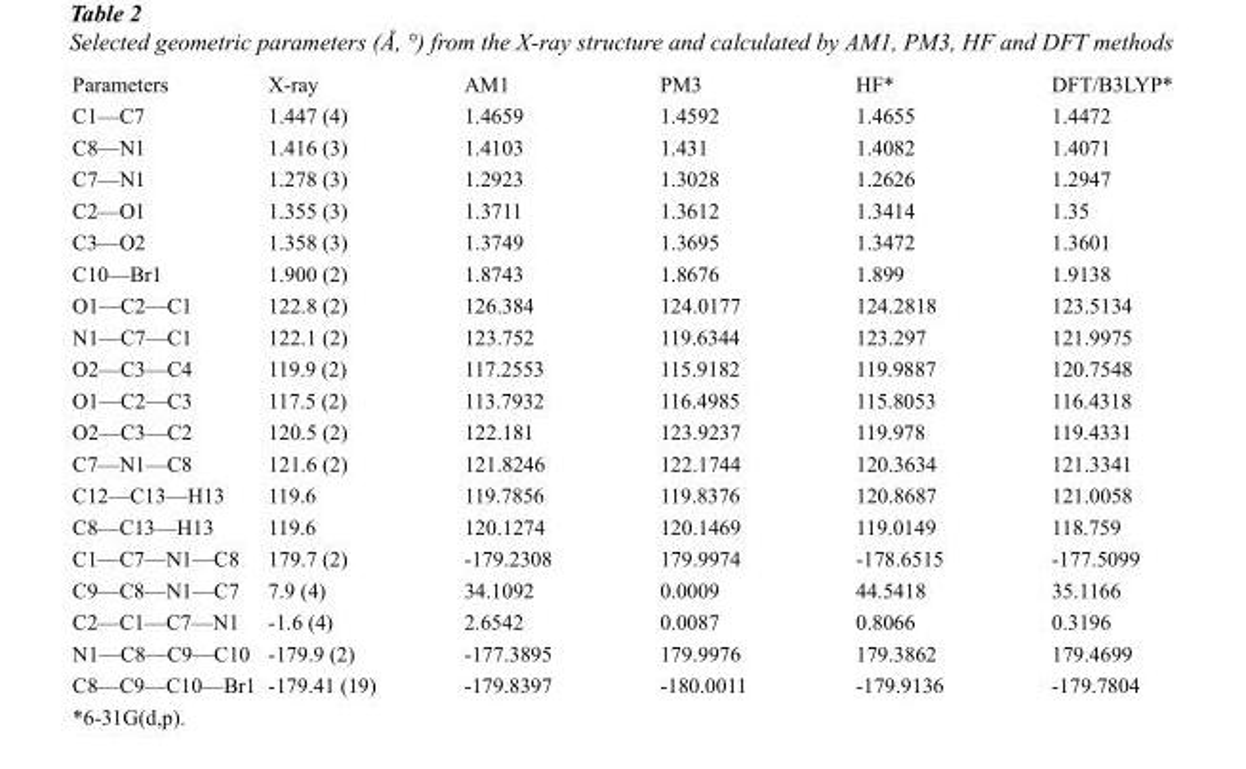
<table><tbody><tr><td>Parameters</td><td>X-ray</td><td>AM1</td><td>PM3</td><td>HF*</td><td>DFT/B3LYP*</td></tr><tr><td>C1—C7</td><td>1.447 (4)</td><td>1.4659</td><td>1.4592</td><td>1.4655</td><td>1.4472</td></tr><tr><td>C8—N1</td><td>1.416 (3)</td><td>1.4103</td><td>1.431</td><td>1.4082</td><td>1.4071</td></tr><tr><td>C7—N1</td><td>1.278 (3)</td><td>1.2923</td><td>1.3028</td><td>1.2626</td><td>1.2947</td></tr><tr><td>C2—O1</td><td>1.355 (3)</td><td>1.3711</td><td>1.3612</td><td>1.3414</td><td>1.35</td></tr><tr><td>C3—O2</td><td>1.358 (3)</td><td>1.3749</td><td>1.3695</td><td>1.3472</td><td>1.3601</td></tr><tr><td>C10—Br1</td><td>1.900 (2)</td><td>1.8743</td><td>1.8676</td><td>1.899</td><td>1.9138</td></tr><tr><td>O1—C2—C1</td><td>122.8 (2)</td><td>126.384</td><td>124.0177</td><td>124.2818</td><td>123.5134</td></tr><tr><td>N1—C7—C1</td><td>122.1 (2)</td><td>123.752</td><td>119.6344</td><td>123.297</td><td>121.9975</td></tr><tr><td>O2—C3—C4</td><td>119.9 (2)</td><td>117.2553</td><td>115.9182</td><td>119.9887</td><td>120.7548</td></tr><tr><td>O1—C2—C3</td><td>117.5 (2)</td><td>113.7932</td><td>116.4985</td><td>115.8053</td><td>116.4318</td></tr><tr><td>O2—C3—C2</td><td>120.5 (2)</td><td>122.181</td><td>123.9237</td><td>119.978</td><td>119.4331</td></tr><tr><td>C7—N1—C8</td><td>121.6 (2)</td><td>121.8246</td><td>122.1744</td><td>120.3634</td><td>121.3341</td></tr><tr><td>C12—C13—H13</td><td>119.6</td><td>119.7856</td><td>119.8376</td><td>120.8687</td><td>121.0058</td></tr><tr><td>C8—C13—H13</td><td>119.6</td><td>120.1274</td><td>120.1469</td><td>119.0149</td><td>118.759</td></tr><tr><td>C1—C7—N1—C8</td><td>179.7 (2)</td><td>-179.2308</td><td>179.9974</td><td>-178.6515</td><td>-177.5099</td></tr><tr><td>C9—C8—N1—C7</td><td>7.9 (4)</td><td>34.1092</td><td>0.0009</td><td>44.5418</td><td>35.1166</td></tr><tr><td>C2—C1—C7—N1</td><td>-1.6 (4)</td><td>2.6542</td><td>0.0087</td><td>0.8066</td><td>0.3196</td></tr><tr><td>N1—C8—C9—C10</td><td>-179.9 (2)</td><td>-177.3895</td><td>179.9976</td><td>179.3862</td><td>179.4699</td></tr><tr><td>C8—C9—C10—Br1</td><td>-179.41 (19)</td><td>-179.8397</td><td>-180.0011</td><td>-179.9136</td><td>-179.7804</td></tr></tbody></table>